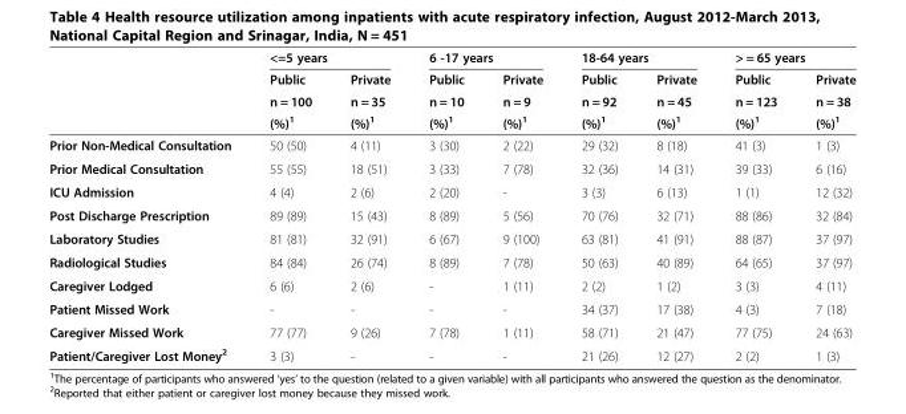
<table><thead><tr><td rowspan="4"></td><td colspan="2">&lt;=5 years</td><td colspan="2">6 -17 years</td><td colspan="2">18-64 years</td><td colspan="2">&gt; = 65 years</td></tr><tr><td rowspan="3">Public n = 100 (%)<sup>1</sup></td><td rowspan="3">Private n = 35 (%)<sup>1</sup></td><td rowspan="3">Public n = 10 (%)<sup>1</sup></td><td rowspan="3">Private n = 9 (%)<sup>1</sup></td><td rowspan="3">Public n = 92 (%)<sup>1</sup></td><td rowspan="3">Private n = 45 (%)<sup>1</sup></td><td rowspan="3">Public n = 123 (%)<sup>1</sup></td><td rowspan="3">Private n = 38 (%)<sup>1</sup></td></tr><tr></tr><tr></tr></thead><tbody><tr><td>Prior Non-Medical Consultation</td><td>50 (50)</td><td>4 (11)</td><td>3 (30)</td><td>2 (22)</td><td>29 (32)</td><td>8 (18)</td><td>41 (3)</td><td>1 (3)</td></tr><tr><td>Prior Medical Consultation</td><td>55 (55)</td><td>18 (51)</td><td>3 (33)</td><td>7 (78)</td><td>32 (36)</td><td>14 (31)</td><td>39 (33)</td><td>6 (16)</td></tr><tr><td>ICU Admission</td><td>4 (4)</td><td>2 (6)</td><td>2 (20)</td><td>-</td><td>3 (3)</td><td>6 (13)</td><td>1 (1)</td><td>12 (32)</td></tr><tr><td>Post Discharge Prescription</td><td>89 (89)</td><td>15 (43)</td><td>8 (89)</td><td>5 (56)</td><td>70 (76)</td><td>32 (71)</td><td>88 (86)</td><td>32 (84)</td></tr><tr><td>Laboratory Studies</td><td>81 (81)</td><td>32 (91)</td><td>6 (67)</td><td>9 (100)</td><td>63 (81)</td><td>41 (91)</td><td>88 (87)</td><td>37 (97)</td></tr><tr><td>Radiological Studies</td><td>84 (84)</td><td>26 (74)</td><td>8 (89)</td><td>7 (78)</td><td>50 (63)</td><td>40 (89)</td><td>64 (65)</td><td>37 (97)</td></tr><tr><td>Caregiver Lodged</td><td>6 (6)</td><td>2 (6)</td><td>-</td><td>1 (11)</td><td>2 (2)</td><td>1 (2)</td><td>3 (3)</td><td>4 (11)</td></tr><tr><td>Patient Missed Work</td><td>-</td><td>-</td><td>-</td><td>-</td><td>34 (37)</td><td>17 (38)</td><td>4 (3)</td><td>7 (18)</td></tr><tr><td>Caregiver Missed Work</td><td>77 (77)</td><td>9 (26)</td><td>7 (78)</td><td>1 (11)</td><td>58 (71)</td><td>21 (47)</td><td>77 (75)</td><td>24 (63)</td></tr><tr><td>Patient/Caregiver Lost Money<sup>2</sup></td><td>3 (3)</td><td>-</td><td>-</td><td>-</td><td>21 (26)</td><td>12 (27)</td><td>2 (2)</td><td>1 (3)</td></tr></tbody></table>